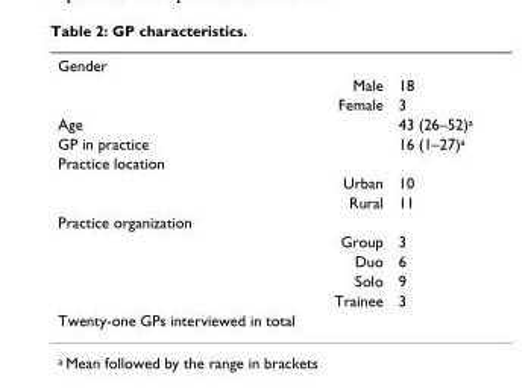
<table><tbody><tr><td colspan="2">Gender</td></tr><tr><td>Male</td><td>18</td></tr><tr><td>Female</td><td>3</td></tr><tr><td>Age</td><td>43 (26–52)<sup>a</sup></td></tr><tr><td>GP in practice</td><td>16 (1–27)<sup>a</sup></td></tr><tr><td colspan="2">Practice location</td></tr><tr><td>Urban</td><td>10</td></tr><tr><td>Rural</td><td>11</td></tr><tr><td colspan="2">Practice organization</td></tr><tr><td>Group</td><td>3</td></tr><tr><td>Duo</td><td>6</td></tr><tr><td>Solo</td><td>9</td></tr><tr><td>Trainee</td><td>3</td></tr><tr><td>Twenty-one GPs interviewed in total</td><td></td></tr></tbody></table>